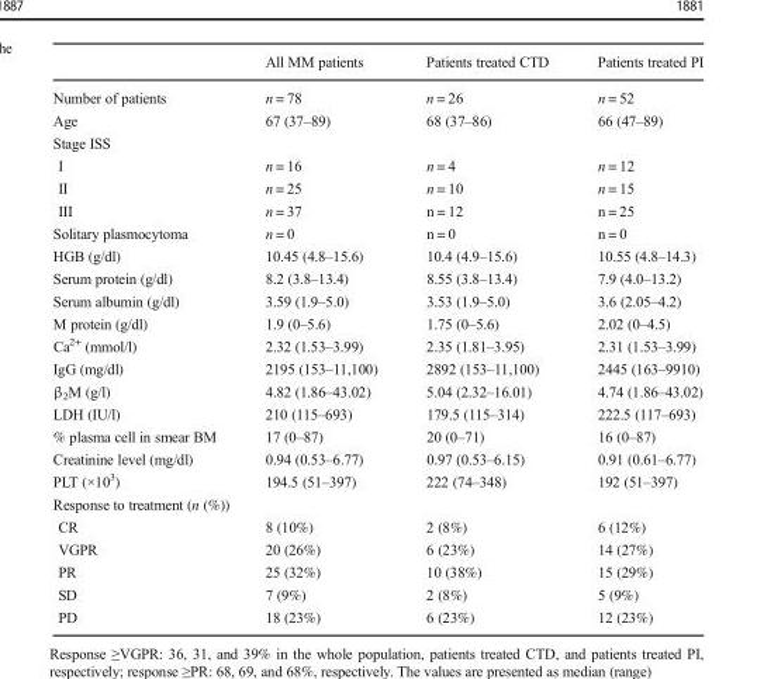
<table><thead><tr><td></td><td>All MM patients</td><td>Patients treated CTD</td><td>Patients treated PI</td></tr></thead><tbody><tr><td>Number of patients</td><td>n = 78</td><td>n = 26</td><td>n = 52</td></tr><tr><td>Age</td><td>67 (37–89)</td><td>68 (37–86)</td><td>66 (47–89)</td></tr><tr><td colspan="4">Stage ISS</td></tr><tr><td>I</td><td>n = 16</td><td>n = 4</td><td>n = 12</td></tr><tr><td>II</td><td>n = 25</td><td>n = 10</td><td>n = 15</td></tr><tr><td>III</td><td>n = 37</td><td>n = 12</td><td>n = 25</td></tr><tr><td>Solitary plasmocytoma</td><td>n = 0</td><td>n = 0</td><td>n = 0</td></tr><tr><td>HGB (g/dl)</td><td>10.45 (4.8–15.6)</td><td>10.4 (4.9–15.6)</td><td>10.55 (4.8–14.3)</td></tr><tr><td>Serum protein (g/dl)</td><td>8.2 (3.8–13.4)</td><td>8.55 (3.8–13.4)</td><td>7.9 (4.0–13.2)</td></tr><tr><td>Serum albumin (g/dl)</td><td>3.59 (1.9–5.0)</td><td>3.53 (1.9–5.0)</td><td>3.6 (2.05–4.2)</td></tr><tr><td>M protein (g/dl)</td><td>1.9 (0–5.6)</td><td>1.75 (0–5.6)</td><td>2.02 (0–4.5)</td></tr><tr><td>Ca<sup>2+</sup> (mmol/l)</td><td>2.32 (1.53–3.99)</td><td>2.35 (1.81–3.95)</td><td>2.31 (1.53–3.99)</td></tr><tr><td>IgG (mg/dl)</td><td>2195 (153–11,100)</td><td>2892 (153–11,100)</td><td>2445 (163–9910)</td></tr><tr><td>β<sub>2</sub>M (g/l)</td><td>4.82 (1.86–43.02)</td><td>5.04 (2.32–16.01)</td><td>4.74 (1.86–43.02)</td></tr><tr><td>LDH (IU/l)</td><td>210 (115–693)</td><td>179.5 (115–314)</td><td>222.5 (117–693)</td></tr><tr><td>% plasma cell in smear BM</td><td>17 (0–87)</td><td>20 (0–71)</td><td>16 (0–87)</td></tr><tr><td>Creatinine level (mg/dl)</td><td>0.94 (0.53–6.77)</td><td>0.97 (0.53–6.15)</td><td>0.91 (0.61–6.77)</td></tr><tr><td>PLT (×10<sup>3</sup>)</td><td>194.5 (51–397)</td><td>222 (74–348)</td><td>192 (51–397)</td></tr><tr><td colspan="4">Response to treatment (n (%))</td></tr><tr><td>CR</td><td>8 (10%)</td><td>2 (8%)</td><td>6 (12%)</td></tr><tr><td>VGPR</td><td>20 (26%)</td><td>6 (23%)</td><td>14 (27%)</td></tr><tr><td>PR</td><td>25 (32%)</td><td>10 (38%)</td><td>15 (29%)</td></tr><tr><td>SD</td><td>7 (9%)</td><td>2 (8%)</td><td>5 (9%)</td></tr><tr><td>PD</td><td>18 (23%)</td><td>6 (23%)</td><td>12 (23%)</td></tr></tbody></table>